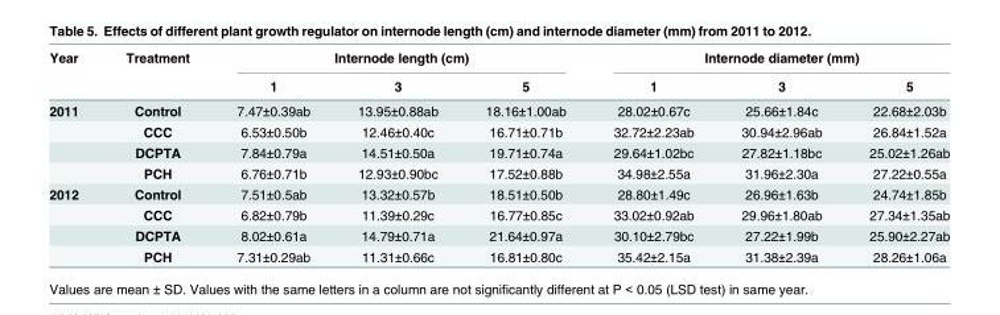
<table><thead><tr><td rowspan="2">Year</td><td rowspan="2">Treatment</td><td colspan="3">Internode length (cm)</td><td colspan="3">Internode diameter (mm)</td></tr><tr><td>1</td><td>3</td><td>5</td><td>1</td><td>3</td><td>5</td></tr></thead><tbody><tr><td rowspan="4">2011</td><td>Control</td><td>7.47±0.39ab</td><td>13.95±0.88ab</td><td>18.16±1.00ab</td><td>28.02±0.67c</td><td>25.66±1.84c</td><td>22.68±2.03b</td></tr><tr><td>CCC</td><td>6.53±0.50b</td><td>12.46±0.40c</td><td>16.71±0.71b</td><td>32.72±2.23ab</td><td>30.94±2.96ab</td><td>26.84±1.52a</td></tr><tr><td>DCPTA</td><td>7.84±0.79a</td><td>14.51±0.50a</td><td>19.71±0.74a</td><td>29.64±1.02bc</td><td>27.82±1.18bc</td><td>25.02±1.26ab</td></tr><tr><td>PCH</td><td>6.76±0.71b</td><td>12.93±0.90bc</td><td>17.52±0.88b</td><td>34.98±2.55a</td><td>31.96±2.30a</td><td>27.22±0.55a</td></tr><tr><td rowspan="4">2012</td><td>Control</td><td>7.51±0.5ab</td><td>13.32±0.57b</td><td>18.51±0.50b</td><td>28.80±1.49c</td><td>26.96±1.63b</td><td>24.74±1.85b</td></tr><tr><td>CCC</td><td>6.82±0.79b</td><td>11.39±0.29c</td><td>16.77±0.85c</td><td>33.02±0.92ab</td><td>29.96±1.80ab</td><td>27.34±1.35ab</td></tr><tr><td>DCPTA</td><td>8.02±0.61a</td><td>14.79±0.71a</td><td>21.64±0.97a</td><td>30.10±2.79bc</td><td>27.22±1.99b</td><td>25.90±2.27ab</td></tr><tr><td>PCH</td><td>7.31±0.29ab</td><td>11.31±0.66c</td><td>16.81±0.80c</td><td>35.42±2.15a</td><td>31.38±2.39a</td><td>28.26±1.06a</td></tr></tbody></table>